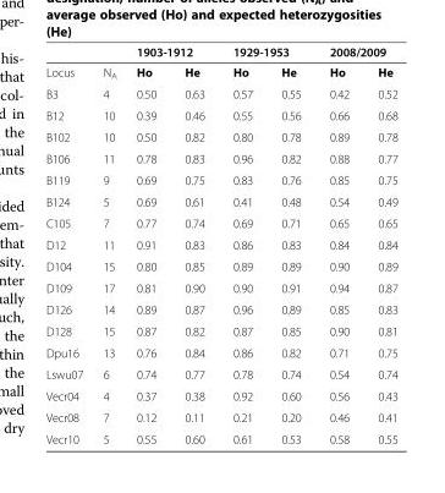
<table><thead><tr><td rowspan="2">Locus</td><td rowspan="2">N<sub>A</sub></td><td colspan="2">1903-1912</td><td colspan="2">1929-1953</td><td colspan="2">2008/2009</td></tr><tr><td>Ho</td><td>He</td><td>Ho</td><td>He</td><td>Ho</td><td>He</td></tr></thead><tbody><tr><td>B3</td><td>4</td><td>0.50</td><td>0.63</td><td>0.57</td><td>0.55</td><td>0.42</td><td>0.52</td></tr><tr><td>B12</td><td>10</td><td>0.39</td><td>0.46</td><td>0.55</td><td>0.56</td><td>0.66</td><td>0.68</td></tr><tr><td>B102</td><td>10</td><td>0.50</td><td>0.82</td><td>0.80</td><td>0.78</td><td>0.89</td><td>0.78</td></tr><tr><td>B106</td><td>11</td><td>0.78</td><td>0.83</td><td>0.96</td><td>0.82</td><td>0.88</td><td>0.77</td></tr><tr><td>B119</td><td>9</td><td>0.69</td><td>0.75</td><td>0.83</td><td>0.76</td><td>0.85</td><td>0.75</td></tr><tr><td>B124</td><td>5</td><td>0.69</td><td>0.61</td><td>0.41</td><td>0.48</td><td>0.54</td><td>0.49</td></tr><tr><td>C105</td><td>7</td><td>0.77</td><td>0.74</td><td>0.69</td><td>0.71</td><td>0.65</td><td>0.65</td></tr><tr><td>D12</td><td>11</td><td>0.91</td><td>0.83</td><td>0.86</td><td>0.83</td><td>0.84</td><td>0.84</td></tr><tr><td>D104</td><td>15</td><td>0.80</td><td>0.85</td><td>0.89</td><td>0.89</td><td>0.90</td><td>0.89</td></tr><tr><td>D109</td><td>17</td><td>0.81</td><td>0.90</td><td>0.90</td><td>0.91</td><td>0.94</td><td>0.87</td></tr><tr><td>D126</td><td>14</td><td>0.89</td><td>0.87</td><td>0.96</td><td>0.89</td><td>0.85</td><td>0.83</td></tr><tr><td>D128</td><td>15</td><td>0.87</td><td>0.82</td><td>0.87</td><td>0.85</td><td>0.90</td><td>0.81</td></tr><tr><td>Dpu16</td><td>13</td><td>0.76</td><td>0.84</td><td>0.86</td><td>0.82</td><td>0.71</td><td>0.75</td></tr><tr><td>Lswu07</td><td>6</td><td>0.74</td><td>0.77</td><td>0.78</td><td>0.74</td><td>0.54</td><td>0.74</td></tr><tr><td>Vecr04</td><td>4</td><td>0.37</td><td>0.38</td><td>0.92</td><td>0.60</td><td>0.56</td><td>0.43</td></tr><tr><td>Vecr08</td><td>7</td><td>0.12</td><td>0.11</td><td>0.21</td><td>0.20</td><td>0.46</td><td>0.41</td></tr><tr><td>Vecr10</td><td>5</td><td>0.55</td><td>0.60</td><td>0.61</td><td>0.53</td><td>0.58</td><td>0.55</td></tr></tbody></table>